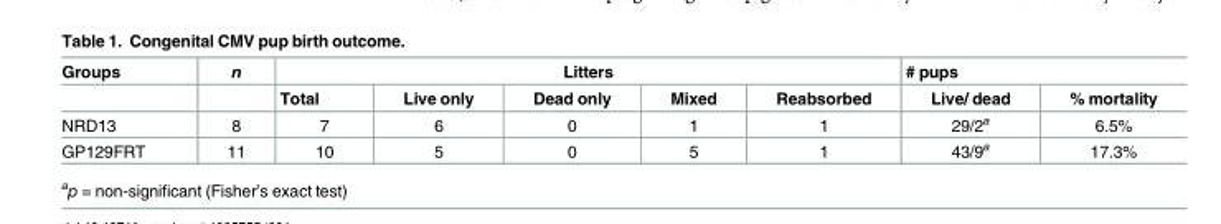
<table><thead><tr><td rowspan="2">Groups</td><td rowspan="2">n</td><td colspan="5">Litters</td><td colspan="2"># pups</td></tr><tr><td>Total</td><td>Live only</td><td>Dead only</td><td>Mixed</td><td>Reabsorbed</td><td>Live/ dead</td><td>% mortality</td></tr></thead><tbody><tr><td>NRD13</td><td>8</td><td>7</td><td>6</td><td>0</td><td>1</td><td>1</td><td>29/2<sup>a</sup></td><td>6.5%</td></tr><tr><td>GP129FRT</td><td>11</td><td>10</td><td>5</td><td>0</td><td>5</td><td>1</td><td>43/9<sup>a</sup></td><td>17.3%</td></tr></tbody></table>